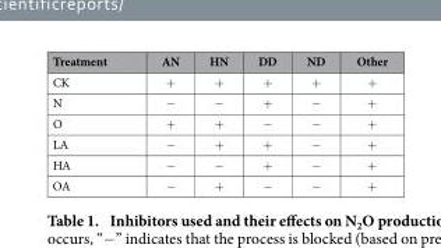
<table><thead><tr><td>Treatment</td><td>AN</td><td>HN</td><td>DD</td><td>ND</td><td>Other</td></tr></thead><tbody><tr><td>CK</td><td>+</td><td>+</td><td>+</td><td>+</td><td>+</td></tr><tr><td>N</td><td>−</td><td>−</td><td>+</td><td>−</td><td>+</td></tr><tr><td>O</td><td>+</td><td>+</td><td>−</td><td>−</td><td>+</td></tr><tr><td>LA</td><td>−</td><td>+</td><td>+</td><td>−</td><td>+</td></tr><tr><td>HA</td><td>−</td><td>−</td><td>+</td><td>−</td><td>+</td></tr><tr><td>OA</td><td>−</td><td>+</td><td>−</td><td>−</td><td>+</td></tr></tbody></table>